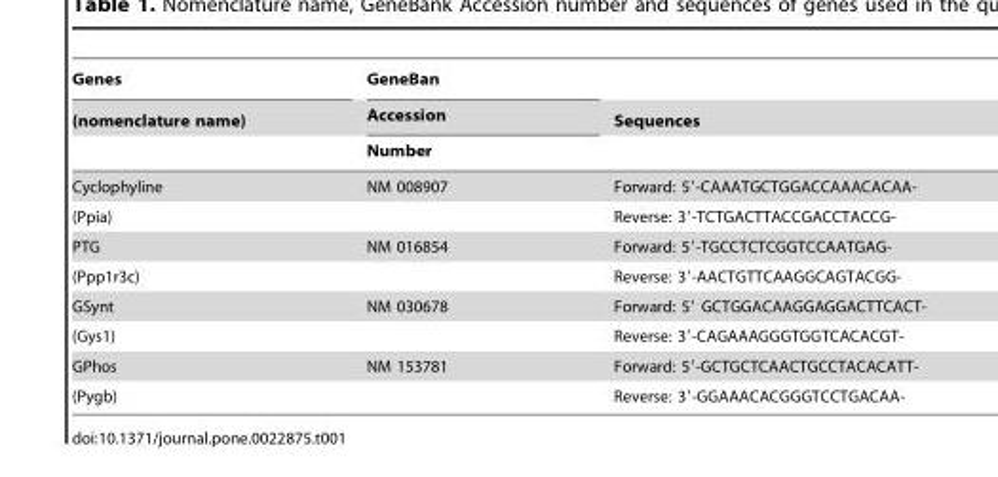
<table><thead><tr><td rowspan="3">Genes (nomenclature name)</td><td rowspan="3">GeneBan Accession Number</td><td rowspan="3">Sequences</td></tr><tr></tr><tr></tr></thead><tbody><tr><td>Cyclophyline</td><td>NM 008907</td><td>Forward: 5′-CAAATGCTGGACCAAACACAA-</td></tr><tr><td>(Ppia)</td><td></td><td>Reverse: 3′-TCTGACTTACCGACCTACCG-</td></tr><tr><td>PTG</td><td>NM 016854</td><td>Forward: 5′-TGCCTCTCGGTCCAATGAG-</td></tr><tr><td>(Ppp1r3c)</td><td></td><td>Reverse: 3′-AACTGTTCAAGGCAGTACGG-</td></tr><tr><td>GSynt</td><td>NM 030678</td><td>Forward: 5′ GCTGGACAAGGAGGACTTCACT-</td></tr><tr><td>(Gys1)</td><td></td><td>Reverse: 3′-CAGAAAGGGTGGTCACACGT-</td></tr><tr><td>GPhos</td><td>NM 153781</td><td>Forward: 5′-GCTGCTCAACTGCCTACACATT-</td></tr><tr><td>(Pygb)</td><td></td><td>Reverse: 3′-GGAAACACGGGTCCTGACAA-</td></tr></tbody></table>